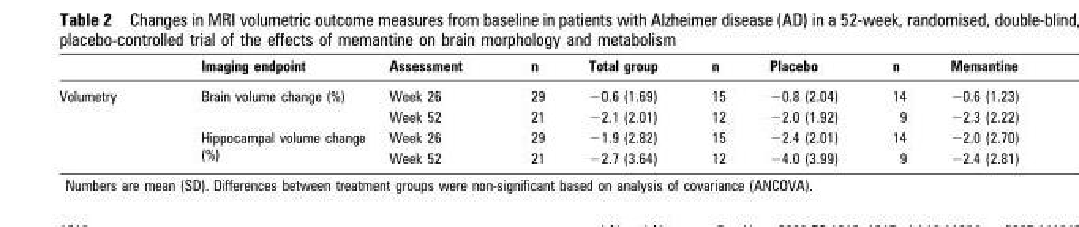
<table><thead><tr><td></td><td>Imaging endpoint</td><td>Assessment</td><td>n</td><td>Total group</td><td>n</td><td>Placebo</td><td>n</td><td>Memantine</td></tr></thead><tbody><tr><td rowspan="4">Volumetry</td><td rowspan="2">Brain volume change (%)</td><td>Week 26</td><td>29</td><td>−0.6 (1.69)</td><td>15</td><td>−0.8 (2.04)</td><td>14</td><td>−0.6 (1.23)</td></tr><tr><td>Week 52</td><td>21</td><td>−2.1 (2.01)</td><td>12</td><td>−2.0 (1.92)</td><td>9</td><td>−2.3 (2.22)</td></tr><tr><td rowspan="2">Hippocampal volume change (%)</td><td>Week 26</td><td>29</td><td>−1.9 (2.82)</td><td>15</td><td>−2.4 (2.01)</td><td>14</td><td>−2.0 (2.70)</td></tr><tr><td>Week 52</td><td>21</td><td>−2.7 (3.64)</td><td>12</td><td>−4.0 (3.99)</td><td>9</td><td>−2.4 (2.81)</td></tr></tbody></table>